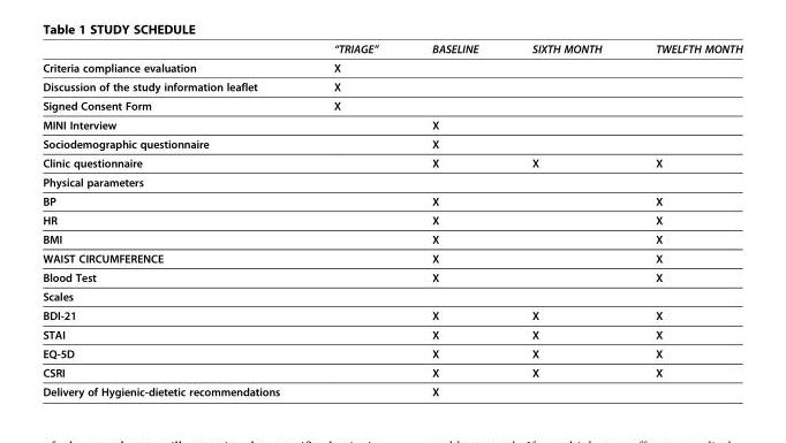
<table><thead><tr><td></td><td>“TRIAGE”</td><td>BASELINE</td><td>SIXTH MONTH</td><td>TWELFTH MONTH</td></tr></thead><tbody><tr><td>Criteria compliance evaluation</td><td>X</td><td></td><td></td><td></td></tr><tr><td>Discussion of the study information leaflet</td><td>X</td><td></td><td></td><td></td></tr><tr><td>Signed Consent Form</td><td>X</td><td></td><td></td><td></td></tr><tr><td>MINI Interview</td><td></td><td>X</td><td></td><td></td></tr><tr><td>Sociodemographic questionnaire</td><td></td><td>X</td><td></td><td></td></tr><tr><td>Clinic questionnaire</td><td></td><td>X</td><td>X</td><td>X</td></tr><tr><td colspan="5">Physical parameters</td></tr><tr><td>BP</td><td></td><td>X</td><td></td><td>X</td></tr><tr><td>HR</td><td></td><td>X</td><td></td><td>X</td></tr><tr><td>BMI</td><td></td><td>X</td><td></td><td>X</td></tr><tr><td>WAIST CIRCUMFERENCE</td><td></td><td>X</td><td></td><td>X</td></tr><tr><td>Blood Test</td><td></td><td>X</td><td></td><td>X</td></tr><tr><td colspan="5">Scales</td></tr><tr><td>BDI-21</td><td></td><td>X</td><td>X</td><td>X</td></tr><tr><td>STAI</td><td></td><td>X</td><td>X</td><td>X</td></tr><tr><td>EQ-5D</td><td></td><td>X</td><td>X</td><td>X</td></tr><tr><td>CSRI</td><td></td><td>X</td><td>X</td><td>X</td></tr><tr><td>Delivery of Hygienic-dietetic recommendations</td><td></td><td>X</td><td></td><td></td></tr></tbody></table>